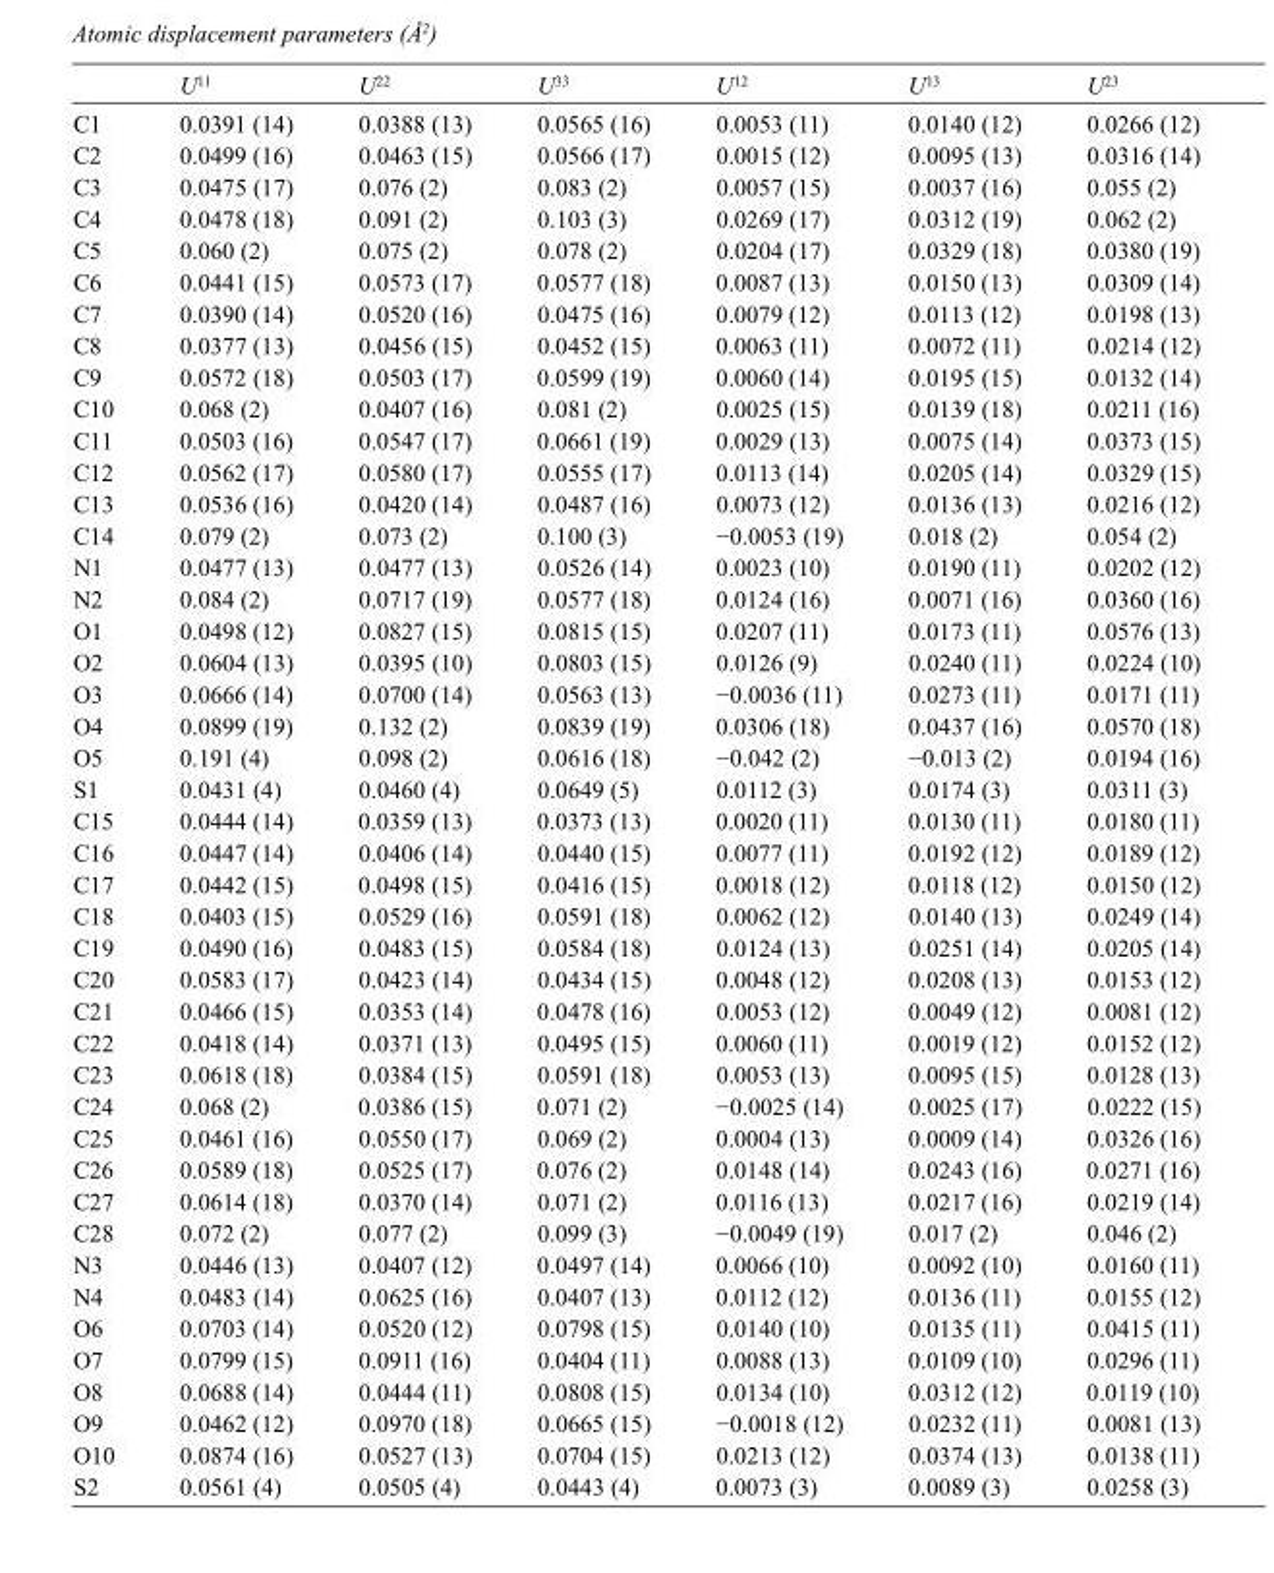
<table><thead><tr><td></td><td>U<sup>11</sup></td><td>U<sup>22</sup></td><td>U<sup>33</sup></td><td>U<sup>12</sup></td><td>U<sup>13</sup></td><td>U<sup>23</sup></td></tr></thead><tbody><tr><td>C1</td><td>0.0391 (14)</td><td>0.0388 (13)</td><td>0.0565 (16)</td><td>0.0053 (11)</td><td>0.0140 (12)</td><td>0.0266 (12)</td></tr><tr><td>C2</td><td>0.0499 (16)</td><td>0.0463 (15)</td><td>0.0566 (17)</td><td>0.0015 (12)</td><td>0.0095 (13)</td><td>0.0316 (14)</td></tr><tr><td>C3</td><td>0.0475 (17)</td><td>0.076 (2)</td><td>0.083 (2)</td><td>0.0057 (15)</td><td>0.0037 (16)</td><td>0.055 (2)</td></tr><tr><td>C4</td><td>0.0478 (18)</td><td>0.091 (2)</td><td>0.103 (3)</td><td>0.0269 (17)</td><td>0.0312 (19)</td><td>0.062 (2)</td></tr><tr><td>C5</td><td>0.060 (2)</td><td>0.075 (2)</td><td>0.078 (2)</td><td>0.0204 (17)</td><td>0.0329 (18)</td><td>0.0380 (19)</td></tr><tr><td>C6</td><td>0.0441 (15)</td><td>0.0573 (17)</td><td>0.0577 (18)</td><td>0.0087 (13)</td><td>0.0150 (13)</td><td>0.0309 (14)</td></tr><tr><td>C7</td><td>0.0390 (14)</td><td>0.0520 (16)</td><td>0.0475 (16)</td><td>0.0079 (12)</td><td>0.0113 (12)</td><td>0.0198 (13)</td></tr><tr><td>C8</td><td>0.0377 (13)</td><td>0.0456 (15)</td><td>0.0452 (15)</td><td>0.0063 (11)</td><td>0.0072 (11)</td><td>0.0214 (12)</td></tr><tr><td>C9</td><td>0.0572 (18)</td><td>0.0503 (17)</td><td>0.0599 (19)</td><td>0.0060 (14)</td><td>0.0195 (15)</td><td>0.0132 (14)</td></tr><tr><td>C10</td><td>0.068 (2)</td><td>0.0407 (16)</td><td>0.081 (2)</td><td>0.0025 (15)</td><td>0.0139 (18)</td><td>0.0211 (16)</td></tr><tr><td>C11</td><td>0.0503 (16)</td><td>0.0547 (17)</td><td>0.0661 (19)</td><td>0.0029 (13)</td><td>0.0075 (14)</td><td>0.0373 (15)</td></tr><tr><td>C12</td><td>0.0562 (17)</td><td>0.0580 (17)</td><td>0.0555 (17)</td><td>0.0113 (14)</td><td>0.0205 (14)</td><td>0.0329 (15)</td></tr><tr><td>C13</td><td>0.0536 (16)</td><td>0.0420 (14)</td><td>0.0487 (16)</td><td>0.0073 (12)</td><td>0.0136 (13)</td><td>0.0216 (12)</td></tr><tr><td>C14</td><td>0.079 (2)</td><td>0.073 (2)</td><td>0.100 (3)</td><td>−0.0053 (19)</td><td>0.018 (2)</td><td>0.054 (2)</td></tr><tr><td>N1</td><td>0.0477 (13)</td><td>0.0477 (13)</td><td>0.0526 (14)</td><td>0.0023 (10)</td><td>0.0190 (11)</td><td>0.0202 (12)</td></tr><tr><td>N2</td><td>0.084 (2)</td><td>0.0717 (19)</td><td>0.0577 (18)</td><td>0.0124 (16)</td><td>0.0071 (16)</td><td>0.0360 (16)</td></tr><tr><td>O1</td><td>0.0498 (12)</td><td>0.0827 (15)</td><td>0.0815 (15)</td><td>0.0207 (11)</td><td>0.0173 (11)</td><td>0.0576 (13)</td></tr><tr><td>O2</td><td>0.0604 (13)</td><td>0.0395 (10)</td><td>0.0803 (15)</td><td>0.0126 (9)</td><td>0.0240 (11)</td><td>0.0224 (10)</td></tr><tr><td>O3</td><td>0.0666 (14)</td><td>0.0700 (14)</td><td>0.0563 (13)</td><td>−0.0036 (11)</td><td>0.0273 (11)</td><td>0.0171 (11)</td></tr><tr><td>O4</td><td>0.0899 (19)</td><td>0.132 (2)</td><td>0.0839 (19)</td><td>0.0306 (18)</td><td>0.0437 (16)</td><td>0.0570 (18)</td></tr><tr><td>O5</td><td>0.191 (4)</td><td>0.098 (2)</td><td>0.0616 (18)</td><td>−0.042 (2)</td><td>−0.013 (2)</td><td>0.0194 (16)</td></tr><tr><td>S1</td><td>0.0431 (4)</td><td>0.0460 (4)</td><td>0.0649 (5)</td><td>0.0112 (3)</td><td>0.0174 (3)</td><td>0.0311 (3)</td></tr><tr><td>C15</td><td>0.0444 (14)</td><td>0.0359 (13)</td><td>0.0373 (13)</td><td>0.0020 (11)</td><td>0.0130 (11)</td><td>0.0180 (11)</td></tr><tr><td>C16</td><td>0.0447 (14)</td><td>0.0406 (14)</td><td>0.0440 (15)</td><td>0.0077 (11)</td><td>0.0192 (12)</td><td>0.0189 (12)</td></tr><tr><td>C17</td><td>0.0442 (15)</td><td>0.0498 (15)</td><td>0.0416 (15)</td><td>0.0018 (12)</td><td>0.0118 (12)</td><td>0.0150 (12)</td></tr><tr><td>C18</td><td>0.0403 (15)</td><td>0.0529 (16)</td><td>0.0591 (18)</td><td>0.0062 (12)</td><td>0.0140 (13)</td><td>0.0249 (14)</td></tr><tr><td>C19</td><td>0.0490 (16)</td><td>0.0483 (15)</td><td>0.0584 (18)</td><td>0.0124 (13)</td><td>0.0251 (14)</td><td>0.0205 (14)</td></tr><tr><td>C20</td><td>0.0583 (17)</td><td>0.0423 (14)</td><td>0.0434 (15)</td><td>0.0048 (12)</td><td>0.0208 (13)</td><td>0.0153 (12)</td></tr><tr><td>C21</td><td>0.0466 (15)</td><td>0.0353 (14)</td><td>0.0478 (16)</td><td>0.0053 (12)</td><td>0.0049 (12)</td><td>0.0081 (12)</td></tr><tr><td>C22</td><td>0.0418 (14)</td><td>0.0371 (13)</td><td>0.0495 (15)</td><td>0.0060 (11)</td><td>0.0019 (12)</td><td>0.0152 (12)</td></tr><tr><td>C23</td><td>0.0618 (18)</td><td>0.0384 (15)</td><td>0.0591 (18)</td><td>0.0053 (13)</td><td>0.0095 (15)</td><td>0.0128 (13)</td></tr><tr><td>C24</td><td>0.068 (2)</td><td>0.0386 (15)</td><td>0.071 (2)</td><td>−0.0025 (14)</td><td>0.0025 (17)</td><td>0.0222 (15)</td></tr><tr><td>C25</td><td>0.0461 (16)</td><td>0.0550 (17)</td><td>0.069 (2)</td><td>0.0004 (13)</td><td>0.0009 (14)</td><td>0.0326 (16)</td></tr><tr><td>C26</td><td>0.0589 (18)</td><td>0.0525 (17)</td><td>0.076 (2)</td><td>0.0148 (14)</td><td>0.0243 (16)</td><td>0.0271 (16)</td></tr><tr><td>C27</td><td>0.0614 (18)</td><td>0.0370 (14)</td><td>0.071 (2)</td><td>0.0116 (13)</td><td>0.0217 (16)</td><td>0.0219 (14)</td></tr><tr><td>C28</td><td>0.072 (2)</td><td>0.077 (2)</td><td>0.099 (3)</td><td>−0.0049 (19)</td><td>0.017 (2)</td><td>0.046 (2)</td></tr><tr><td>N3</td><td>0.0446 (13)</td><td>0.0407 (12)</td><td>0.0497 (14)</td><td>0.0066 (10)</td><td>0.0092 (10)</td><td>0.0160 (11)</td></tr><tr><td>N4</td><td>0.0483 (14)</td><td>0.0625 (16)</td><td>0.0407 (13)</td><td>0.0112 (12)</td><td>0.0136 (11)</td><td>0.0155 (12)</td></tr><tr><td>O6</td><td>0.0703 (14)</td><td>0.0520 (12)</td><td>0.0798 (15)</td><td>0.0140 (10)</td><td>0.0135 (11)</td><td>0.0415 (11)</td></tr><tr><td>O7</td><td>0.0799 (15)</td><td>0.0911 (16)</td><td>0.0404 (11)</td><td>0.0088 (13)</td><td>0.0109 (10)</td><td>0.0296 (11)</td></tr><tr><td>O8</td><td>0.0688 (14)</td><td>0.0444 (11)</td><td>0.0808 (15)</td><td>0.0134 (10)</td><td>0.0312 (12)</td><td>0.0119 (10)</td></tr><tr><td>O9</td><td>0.0462 (12)</td><td>0.0970 (18)</td><td>0.0665 (15)</td><td>−0.0018 (12)</td><td>0.0232 (11)</td><td>0.0081 (13)</td></tr><tr><td>O10</td><td>0.0874 (16)</td><td>0.0527 (13)</td><td>0.0704 (15)</td><td>0.0213 (12)</td><td>0.0374 (13)</td><td>0.0138 (11)</td></tr><tr><td>S2</td><td>0.0561 (4)</td><td>0.0505 (4)</td><td>0.0443 (4)</td><td>0.0073 (3)</td><td>0.0089 (3)</td><td>0.0258 (3)</td></tr></tbody></table>